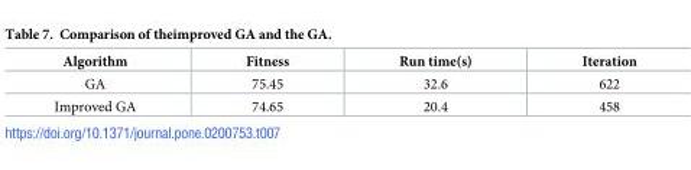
<table><thead><tr><td>Algorithm</td><td>Fitness</td><td>Run time(s)</td><td>Iteration</td></tr></thead><tbody><tr><td>GA</td><td>75.45</td><td>32.6</td><td>622</td></tr><tr><td>Improved GA</td><td>74.65</td><td>20.4</td><td>458</td></tr></tbody></table>